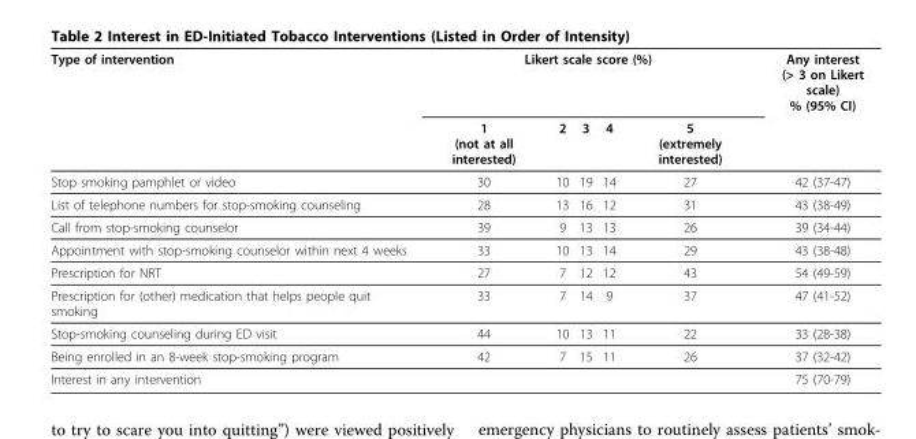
<table><thead><tr><td rowspan="2">Type of intervention</td><td colspan="5">Likert scale score (%)</td><td rowspan="2">Any interest (&gt; 3 on Likert scale) % (95% CI)</td></tr><tr><td>1 (not at all interested)</td><td>2</td><td>3</td><td>4</td><td>5 (extremely interested)</td></tr></thead><tbody><tr><td>Stop smoking pamphlet or video</td><td>30</td><td>10</td><td>19</td><td>14</td><td>27</td><td>42 (37-47)</td></tr><tr><td>List of telephone numbers for stop-smoking counseling</td><td>28</td><td>13</td><td>16</td><td>12</td><td>31</td><td>43 (38-49)</td></tr><tr><td>Call from stop-smoking counselor</td><td>39</td><td>9</td><td>13</td><td>13</td><td>26</td><td>39 (34-44)</td></tr><tr><td>Appointment with stop-smoking counselor within next 4 weeks</td><td>33</td><td>10</td><td>13</td><td>14</td><td>29</td><td>43 (38-48)</td></tr><tr><td>Prescription for NRT</td><td>27</td><td>7</td><td>12</td><td>12</td><td>43</td><td>54 (49-59)</td></tr><tr><td>Prescription for (other) medication that helps people quit smoking</td><td>33</td><td>7</td><td>14</td><td>9</td><td>37</td><td>47 (41-52)</td></tr><tr><td>Stop-smoking counseling during ED visit</td><td>44</td><td>10</td><td>13</td><td>11</td><td>22</td><td>33 (28-38)</td></tr><tr><td>Being enrolled in an 8-week stop-smoking program</td><td>42</td><td>7</td><td>15</td><td>11</td><td>26</td><td>37 (32-42)</td></tr><tr><td>Interest in any intervention</td><td></td><td></td><td></td><td></td><td></td><td>75 (70-79)</td></tr></tbody></table>